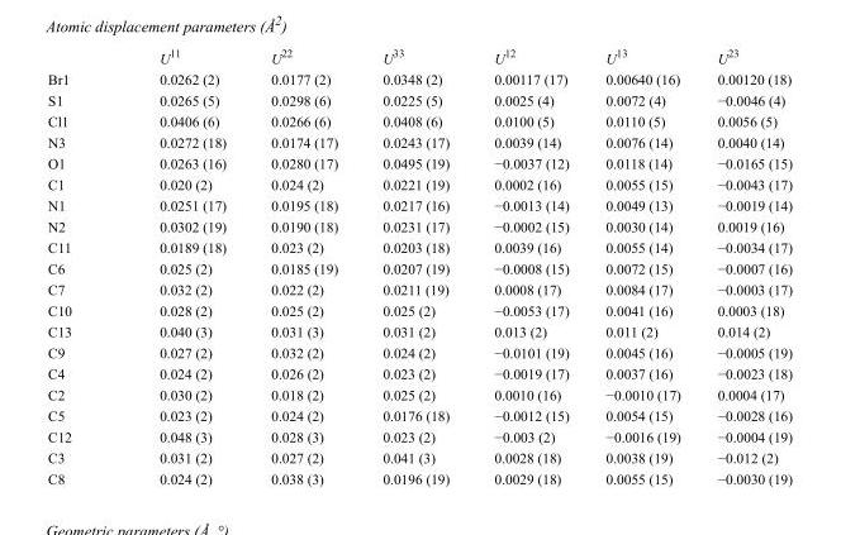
<table><thead><tr><td></td><td>U<sup>11</sup></td><td>U<sup>22</sup></td><td>U<sup>33</sup></td><td>U<sup>12</sup></td><td>U<sup>13</sup></td><td>U<sup>23</sup></td></tr></thead><tbody><tr><td>Br1</td><td>0.0262 (2)</td><td>0.0177 (2)</td><td>0.0348 (2)</td><td>0.00117 (17)</td><td>0.00640 (16)</td><td>0.00120 (18)</td></tr><tr><td>S1</td><td>0.0265 (5)</td><td>0.0298 (6)</td><td>0.0225 (5)</td><td>0.0025 (4)</td><td>0.0072 (4)</td><td>−0.0046 (4)</td></tr><tr><td>Cl1</td><td>0.0406 (6)</td><td>0.0266 (6)</td><td>0.0408 (6)</td><td>0.0100 (5)</td><td>0.0110 (5)</td><td>0.0056 (5)</td></tr><tr><td>N3</td><td>0.0272 (18)</td><td>0.0174 (17)</td><td>0.0243 (17)</td><td>0.0039 (14)</td><td>0.0076 (14)</td><td>0.0040 (14)</td></tr><tr><td>O1</td><td>0.0263 (16)</td><td>0.0280 (17)</td><td>0.0495 (19)</td><td>−0.0037 (12)</td><td>0.0118 (14)</td><td>−0.0165 (15)</td></tr><tr><td>C1</td><td>0.020 (2)</td><td>0.024 (2)</td><td>0.0221 (19)</td><td>0.0002 (16)</td><td>0.0055 (15)</td><td>−0.0043 (17)</td></tr><tr><td>N1</td><td>0.0251 (17)</td><td>0.0195 (18)</td><td>0.0217 (16)</td><td>−0.0013 (14)</td><td>0.0049 (13)</td><td>−0.0019 (14)</td></tr><tr><td>N2</td><td>0.0302 (19)</td><td>0.0190 (18)</td><td>0.0231 (17)</td><td>−0.0002 (15)</td><td>0.0030 (14)</td><td>0.0019 (16)</td></tr><tr><td>C11</td><td>0.0189 (18)</td><td>0.023 (2)</td><td>0.0203 (18)</td><td>0.0039 (16)</td><td>0.0055 (14)</td><td>−0.0034 (17)</td></tr><tr><td>C6</td><td>0.025 (2)</td><td>0.0185 (19)</td><td>0.0207 (19)</td><td>−0.0008 (15)</td><td>0.0072 (15)</td><td>−0.0007 (16)</td></tr><tr><td>C7</td><td>0.032 (2)</td><td>0.022 (2)</td><td>0.0211 (19)</td><td>0.0008 (17)</td><td>0.0084 (17)</td><td>−0.0003 (17)</td></tr><tr><td>C10</td><td>0.028 (2)</td><td>0.025 (2)</td><td>0.025 (2)</td><td>−0.0053 (17)</td><td>0.0041 (16)</td><td>0.0003 (18)</td></tr><tr><td>C13</td><td>0.040 (3)</td><td>0.031 (3)</td><td>0.031 (2)</td><td>0.013 (2)</td><td>0.011 (2)</td><td>0.014 (2)</td></tr><tr><td>C9</td><td>0.027 (2)</td><td>0.032 (2)</td><td>0.024 (2)</td><td>−0.0101 (19)</td><td>0.0045 (16)</td><td>−0.0005 (19)</td></tr><tr><td>C4</td><td>0.024 (2)</td><td>0.026 (2)</td><td>0.023 (2)</td><td>−0.0019 (17)</td><td>0.0037 (16)</td><td>−0.0023 (18)</td></tr><tr><td>C2</td><td>0.030 (2)</td><td>0.018 (2)</td><td>0.025 (2)</td><td>0.0010 (16)</td><td>−0.0010 (17)</td><td>0.0004 (17)</td></tr><tr><td>C5</td><td>0.023 (2)</td><td>0.024 (2)</td><td>0.0176 (18)</td><td>−0.0012 (15)</td><td>0.0054 (15)</td><td>−0.0028 (16)</td></tr><tr><td>C12</td><td>0.048 (3)</td><td>0.028 (3)</td><td>0.023 (2)</td><td>−0.003 (2)</td><td>−0.0016 (19)</td><td>−0.0004 (19)</td></tr><tr><td>C3</td><td>0.031 (2)</td><td>0.027 (2)</td><td>0.041 (3)</td><td>0.0028 (18)</td><td>0.0038 (19)</td><td>−0.012 (2)</td></tr><tr><td>C8</td><td>0.024 (2)</td><td>0.038 (3)</td><td>0.0196 (19)</td><td>0.0029 (18)</td><td>0.0055 (15)</td><td>−0.0030 (19)</td></tr></tbody></table>